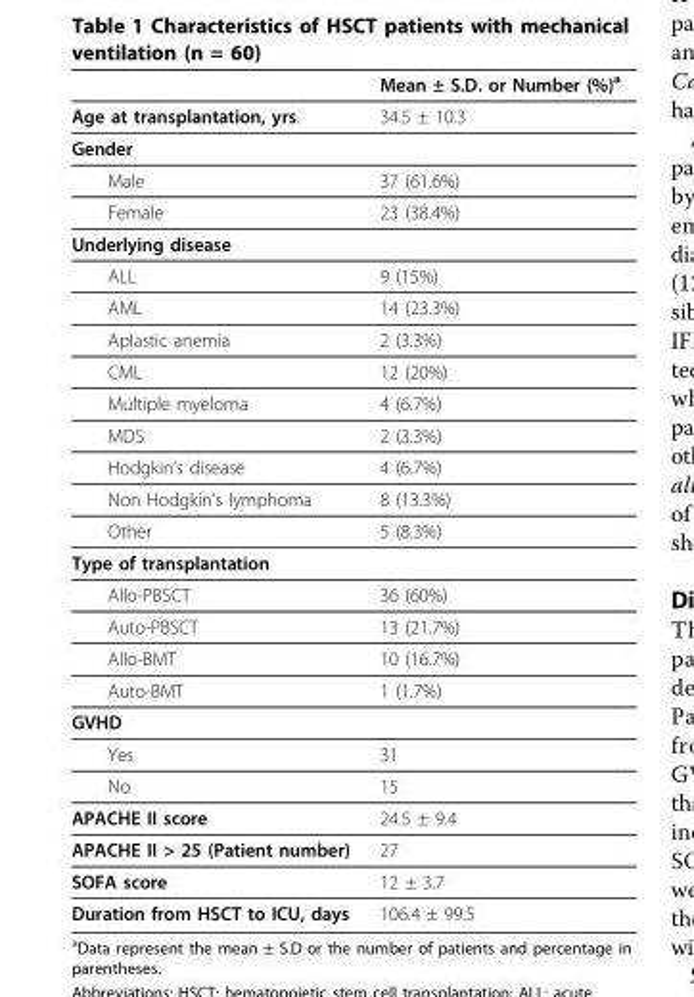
<table><thead><tr><td></td><td>Mean ± S.D. or Number (%)<sup>a</sup></td></tr></thead><tbody><tr><td>Age at transplantation, yrs.</td><td>34.5 ± 10.3</td></tr><tr><td colspan="2">Gender</td></tr><tr><td>Male</td><td>37 (61.6%)</td></tr><tr><td>Female</td><td>23 (38.4%)</td></tr><tr><td colspan="2">Underlying disease</td></tr><tr><td>ALL</td><td>9 (15%)</td></tr><tr><td>AML</td><td>14 (23.3%)</td></tr><tr><td>Aplastic anemia</td><td>2 (3.3%)</td></tr><tr><td>CML</td><td>12 (20%)</td></tr><tr><td>Multiple myeloma</td><td>4 (6.7%)</td></tr><tr><td>MDS</td><td>2 (3.3%)</td></tr><tr><td>Hodgkin’s disease</td><td>4 (6.7%)</td></tr><tr><td>Non Hodgkin’s lymphoma</td><td>8 (13.3%)</td></tr><tr><td>Other</td><td>5 (8.3%)</td></tr><tr><td colspan="2">Type of transplantation</td></tr><tr><td>Allo-PBSCT</td><td>36 (60%)</td></tr><tr><td>Auto-PBSCT</td><td>13 (21.7%)</td></tr><tr><td>Allo-BMT</td><td>10 (16.7%)</td></tr><tr><td>Auto-BMT</td><td>1 (1.7%)</td></tr><tr><td colspan="2">GVHD</td></tr><tr><td>Yes</td><td>31</td></tr><tr><td>No</td><td>15</td></tr><tr><td>APACHE II score</td><td>24.5 ± 9.4</td></tr><tr><td>APACHE II &gt; 25 (Patient number)</td><td>27</td></tr><tr><td>SOFA score</td><td>12 ± 3.7</td></tr><tr><td>Duration from HSCT to ICU, days</td><td>106.4 ± 99.5</td></tr></tbody></table>